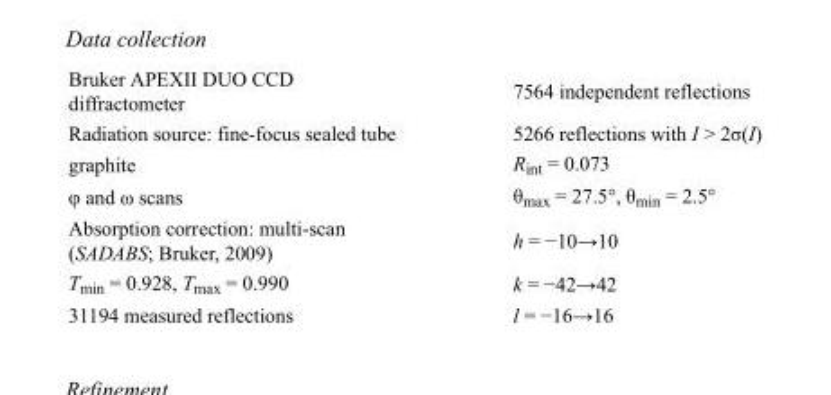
<table><tbody><tr><td>Bruker APEXII DUO CCD diffractometer</td><td>7564 independent reflections</td></tr><tr><td>Radiation source: fine-focus sealed tube</td><td>5266 reflections with I &gt; 2σ(I)</td></tr><tr><td>graphite</td><td>R<sub>int</sub> = 0.073</td></tr><tr><td>φ and ω scans</td><td>θ<sub>max</sub> = 27.5°, θ<sub>min</sub> = 2.5°</td></tr><tr><td>Absorption correction: multi-scan (SADABS; Bruker, 2009)</td><td>h = −10→10</td></tr><tr><td>T<sub>min</sub> = 0.928, T<sub>max</sub> = 0.990</td><td>k = −42→42</td></tr><tr><td>31194 measured reflections</td><td>l = −16→16</td></tr></tbody></table>